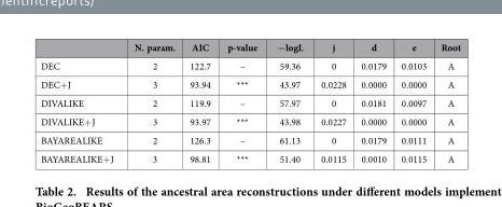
<table><thead><tr><td></td><td>N. param.</td><td>AIC</td><td>p-value</td><td>−logL</td><td>j</td><td>d</td><td>e</td><td>Root</td></tr></thead><tbody><tr><td>DEC</td><td>2</td><td>122.7</td><td>–</td><td>59.36</td><td>0</td><td>0.0179</td><td>0.0103</td><td>A</td></tr><tr><td>DEC+ J</td><td>3</td><td>93.94</td><td>***</td><td>43.97</td><td>0.0228</td><td>0.0000</td><td>0.0000</td><td>A</td></tr><tr><td>DIVALIKE</td><td>2</td><td>119.9</td><td>–</td><td>57.97</td><td>0</td><td>0.0181</td><td>0.0097</td><td>A</td></tr><tr><td>DIVALIKE+ J</td><td>3</td><td>93.97</td><td>***</td><td>43.98</td><td>0.0227</td><td>0.0000</td><td>0.0000</td><td>A</td></tr><tr><td>BAYAREALIKE</td><td>2</td><td>126.3</td><td>–</td><td>61.13</td><td>0</td><td>0.0179</td><td>0.0111</td><td>A</td></tr><tr><td>BAYAREALIKE+ J</td><td>3</td><td>98.81</td><td>***</td><td>51.40</td><td>0.0115</td><td>0.0010</td><td>0.0115</td><td>A</td></tr></tbody></table>